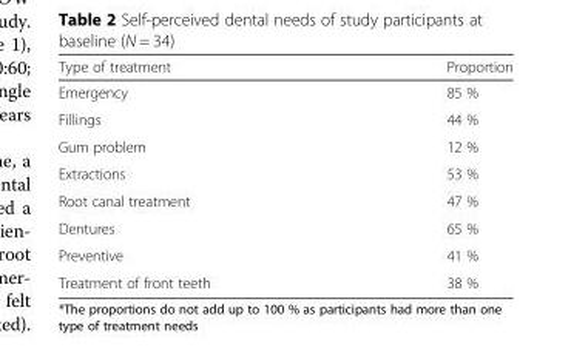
<table><thead><tr><td>Type of treatment</td><td>Proportion</td></tr></thead><tbody><tr><td>Emergency</td><td>85 %</td></tr><tr><td>Fillings</td><td>44 %</td></tr><tr><td>Gum problem</td><td>12 %</td></tr><tr><td>Extractions</td><td>53 %</td></tr><tr><td>Root canal treatment</td><td>47 %</td></tr><tr><td>Dentures</td><td>65 %</td></tr><tr><td>Preventive</td><td>41 %</td></tr><tr><td>Treatment of front teeth</td><td>38 %</td></tr></tbody></table>